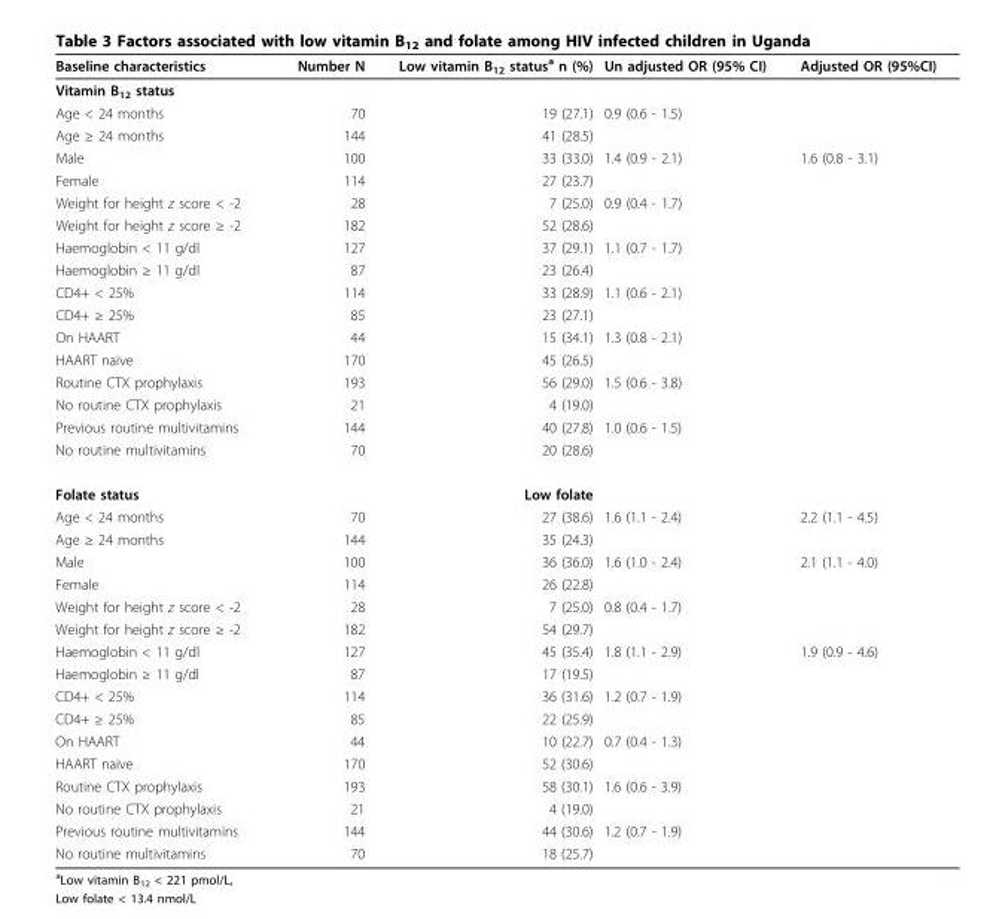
<table><thead><tr><td>Baseline characteristics</td><td>Number N</td><td>Low vitamin B<sub>12</sub> status<sup>a</sup> n (%)</td><td>Un adjusted OR (95% CI)</td><td>Adjusted OR (95%CI)</td></tr></thead><tbody><tr><td colspan="5">Vitamin B<sub>12</sub> status</td></tr><tr><td>Age &lt; 24 months</td><td>70</td><td>19 (27.1)</td><td>0.9 (0.6 - 1.5)</td><td></td></tr><tr><td>Age ≥ 24 months</td><td>144</td><td>41 (28.5)</td><td></td><td></td></tr><tr><td>Male</td><td>100</td><td>33 (33.0)</td><td>1.4 (0.9 - 2.1)</td><td>1.6 (0.8 - 3.1)</td></tr><tr><td>Female</td><td>114</td><td>27 (23.7)</td><td></td><td></td></tr><tr><td>Weight for height z score &lt; -2</td><td>28</td><td>7 (25.0)</td><td>0.9 (0.4 - 1.7)</td><td></td></tr><tr><td>Weight for height z score ≥ -2</td><td>182</td><td>52 (28.6)</td><td></td><td></td></tr><tr><td>Haemoglobin &lt; 11 g/dl</td><td>127</td><td>37 (29.1)</td><td>1.1 (0.7 - 1.7)</td><td></td></tr><tr><td>Haemoglobin ≥ 11 g/dl</td><td>87</td><td>23 (26.4)</td><td></td><td></td></tr><tr><td>CD4+ &lt; 25%</td><td>114</td><td>33 (28.9)</td><td>1.1 (0.6 - 2.1)</td><td></td></tr><tr><td>CD4+ ≥ 25%</td><td>85</td><td>23 (27.1)</td><td></td><td></td></tr><tr><td>On HAART</td><td>44</td><td>15 (34.1)</td><td>1.3 (0.8 - 2.1)</td><td></td></tr><tr><td>HAART naïve</td><td>170</td><td>45 (26.5)</td><td></td><td></td></tr><tr><td>Routine CTX prophylaxis</td><td>193</td><td>56 (29.0)</td><td>1.5 (0.6 - 3.8)</td><td></td></tr><tr><td>No routine CTX prophylaxis</td><td>21</td><td>4 (19.0)</td><td></td><td></td></tr><tr><td>Previous routine multivitamins</td><td>144</td><td>40 (27.8)</td><td>1.0 (0.6 - 1.5)</td><td></td></tr><tr><td>No routine multivitamins</td><td>70</td><td>20 (28.6)</td><td></td><td></td></tr><tr><td>Folate status</td><td></td><td>Low folate</td><td></td><td></td></tr><tr><td>Age &lt; 24 months</td><td>70</td><td>27 (38.6)</td><td>1.6 (1.1 - 2.4)</td><td>2.2 (1.1 - 4.5)</td></tr><tr><td>Age ≥ 24 months</td><td>144</td><td>35 (24.3)</td><td></td><td></td></tr><tr><td>Male</td><td>100</td><td>36 (36.0)</td><td>1.6 (1.0 - 2.4)</td><td>2.1 (1.1 - 4.0)</td></tr><tr><td>Female</td><td>114</td><td>26 (22.8)</td><td></td><td></td></tr><tr><td>Weight for height z score &lt; -2</td><td>28</td><td>7 (25.0)</td><td>0.8 (0.4 - 1.7)</td><td></td></tr><tr><td>Weight for height z score ≥ -2</td><td>182</td><td>54 (29.7)</td><td></td><td></td></tr><tr><td>Haemoglobin &lt; 11 g/dl</td><td>127</td><td>45 (35.4)</td><td>1.8 (1.1 - 2.9)</td><td>1.9 (0.9 - 4.6)</td></tr><tr><td>Haemoglobin ≥ 11 g/dl</td><td>87</td><td>17 (19.5)</td><td></td><td></td></tr><tr><td>CD4+ &lt; 25%</td><td>114</td><td>36 (31.6)</td><td>1.2 (0.7 - 1.9)</td><td></td></tr><tr><td>CD4+ ≥ 25%</td><td>85</td><td>22 (25.9)</td><td></td><td></td></tr><tr><td>On HAART</td><td>44</td><td>10 (22.7)</td><td>0.7 (0.4 - 1.3)</td><td></td></tr><tr><td>HAART naïve</td><td>170</td><td>52 (30.6)</td><td></td><td></td></tr><tr><td>Routine CTX prophylaxis</td><td>193</td><td>58 (30.1)</td><td>1.6 (0.6 - 3.9)</td><td></td></tr><tr><td>No routine CTX prophylaxis</td><td>21</td><td>4 (19.0)</td><td></td><td></td></tr><tr><td>Previous routine multivitamins</td><td>144</td><td>44 (30.6)</td><td>1.2 (0.7 - 1.9)</td><td></td></tr><tr><td>No routine multivitamins</td><td>70</td><td>18 (25.7)</td><td></td><td></td></tr></tbody></table>